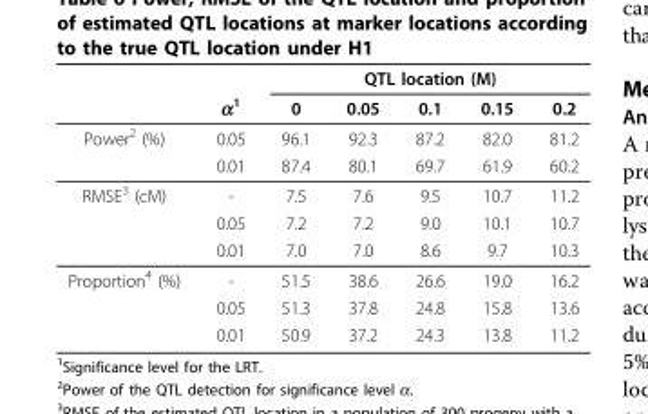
<table><thead><tr><td rowspan="2"></td><td rowspan="2">α<sup>1</sup></td><td colspan="5">QTL location (M)</td></tr><tr><td>0</td><td>0.05</td><td>0.1</td><td>0.15</td><td>0.2</td></tr></thead><tbody><tr><td rowspan="2">Power<sup>2</sup> (%)</td><td>0.05</td><td>96.1</td><td>92.3</td><td>87.2</td><td>82.0</td><td>81.2</td></tr><tr><td>0.01</td><td>87.4</td><td>80.1</td><td>69.7</td><td>61.9</td><td>60.2</td></tr><tr><td rowspan="3">RMSE<sup>3</sup> (cM)</td><td>-</td><td>7.5</td><td>7.6</td><td>9.5</td><td>10.7</td><td>11.2</td></tr><tr><td>0.05</td><td>7.2</td><td>7.2</td><td>9.0</td><td>10.1</td><td>10.7</td></tr><tr><td>0.01</td><td>7.0</td><td>7.0</td><td>8.6</td><td>9.7</td><td>10.3</td></tr><tr><td rowspan="3">Proportion<sup>4</sup> (%)</td><td>-</td><td>51.5</td><td>38.6</td><td>26.6</td><td>19.0</td><td>16.2</td></tr><tr><td>0.05</td><td>51.3</td><td>37.8</td><td>24.8</td><td>15.8</td><td>13.6</td></tr><tr><td>0.01</td><td>50.9</td><td>37.2</td><td>24.3</td><td>13.8</td><td>11.2</td></tr></tbody></table>